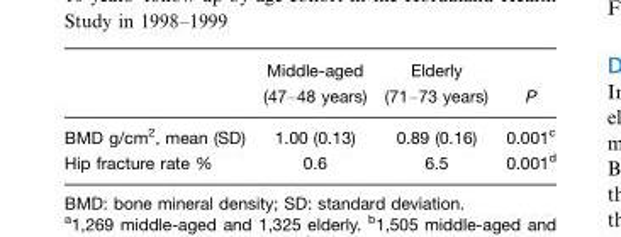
<table><thead><tr><td></td><td>Middle-aged (47–48 years)</td><td>Elderly (71–73 years)</td><td>P</td></tr></thead><tbody><tr><td>BMD g/cm<sup>2</sup>, mean (SD)</td><td>1.00 (0.13)</td><td>0.89 (0.16)</td><td>0.001<sup>c</sup></td></tr><tr><td>Hip fracture rate %</td><td>0.6</td><td>6.5</td><td>0.001<sup>d</sup></td></tr></tbody></table>